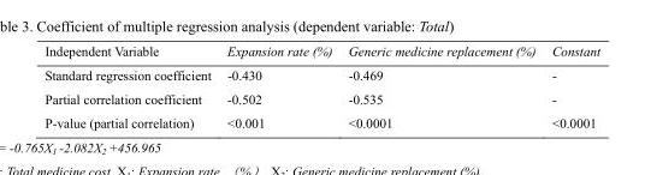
<table><thead><tr><td>Independent Variable</td><td>Expansion rate (%)</td><td>Generic medicine replacement (%)</td><td>Constant</td></tr></thead><tbody><tr><td>Standard regression coefficient</td><td>-0.430</td><td>-0.469</td><td>-</td></tr><tr><td>Partial correlation coefficient</td><td>-0.502</td><td>-0.535</td><td>-</td></tr><tr><td>P-value (partial correlation)</td><td>&lt;0.001</td><td>&lt;0.0001</td><td>&lt;0.0001</td></tr></tbody></table>